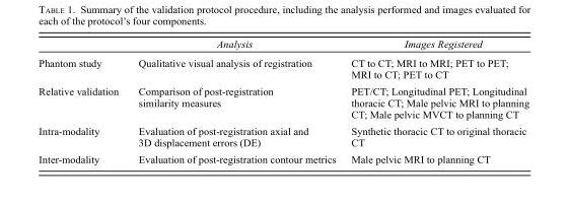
<table><thead><tr><td></td><td>Analysis</td><td>Images Registered</td></tr></thead><tbody><tr><td>Phantom study</td><td>Qualitative visual analysis of registration</td><td>CT to CT; MRI to MRI; PET to PET; MRI to CT; PET to CT</td></tr><tr><td>Relative validation</td><td>Comparison of post-registration similarity measures</td><td>PET/CT; Longitudinal PET; Longitudinal thoracic CT; Male pelvic MRI to planning CT; Male pelvic MVCT to planning CT</td></tr><tr><td>Intra-modality</td><td>Evaluation of post-registration axial and 3D displacement errors (DE)</td><td>Synthetic thoracic CT to original thoracic CT</td></tr><tr><td>Inter-modality</td><td>Evaluation of post-registration contour metrics</td><td>Male pelvic MRI to planning CT</td></tr></tbody></table>